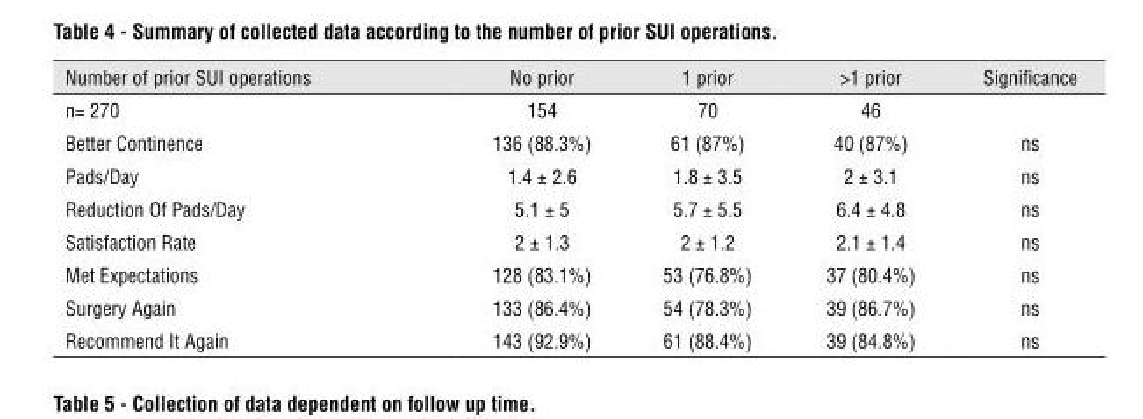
<table><thead><tr><td>Number of prior SUI operations</td><td>No prior</td><td>1 prior</td><td>&gt;1 prior</td><td>Significance</td></tr></thead><tbody><tr><td>n= 270</td><td>154</td><td>70</td><td>46</td><td></td></tr><tr><td>Better Continence</td><td>136 (88.3%)</td><td>61 (87%)</td><td>40 (87%)</td><td>ns</td></tr><tr><td>Pads/Day</td><td>1.4 ± 2.6</td><td>1.8 ± 3.5</td><td>2 ± 3.1</td><td>ns</td></tr><tr><td>Reduction Of Pads/Day</td><td>5.1 ± 5</td><td>5.7 ± 5.5</td><td>6.4 ± 4.8</td><td>ns</td></tr><tr><td>Satisfaction Rate</td><td>2 ± 1.3</td><td>2 ± 1.2</td><td>2.1 ± 1.4</td><td>ns</td></tr><tr><td>Met Expectations</td><td>128 (83.1%)</td><td>53 (76.8%)</td><td>37 (80.4%)</td><td>ns</td></tr><tr><td>Surgery Again</td><td>133 (86.4%)</td><td>54 (78.3%)</td><td>39 (86.7%)</td><td>ns</td></tr><tr><td>Recommend It Again</td><td>143 (92.9%)</td><td>61 (88.4%)</td><td>39 (84.8%)</td><td>ns</td></tr></tbody></table>